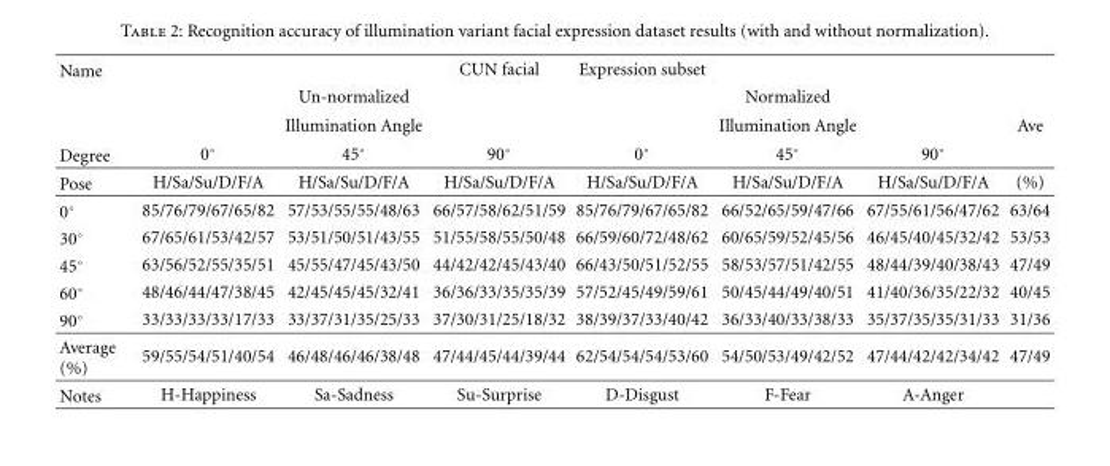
<table><thead><tr><td rowspan="4">Name Degree</td><td rowspan="4">0◦</td><td rowspan="4">Un-normalized Illumination Angle 45◦</td><td rowspan="4">CUN facial 90◦</td><td rowspan="4">Expression subset 0◦</td><td rowspan="4">Normalized Illumination Angle 45◦</td><td rowspan="4">90◦</td><td rowspan="4">Ave</td></tr><tr></tr><tr></tr><tr></tr></thead><tbody><tr><td>Pose</td><td>H/Sa/Su/D/F/A</td><td>H/Sa/Su/D/F/A</td><td>H/Sa/Su/D/F/A</td><td>H/Sa/Su/D/F/A</td><td>H/Sa/Su/D/F/A</td><td>H/Sa/Su/D/F/A</td><td>(%)</td></tr><tr><td>0◦</td><td>85/76/79/67/65/82</td><td>57/53/55/55/48/63</td><td>66/57/58/62/51/59</td><td>85/76/79/67/65/82</td><td>66/52/65/59/47/66</td><td>67/55/61/56/47/62</td><td>63/64</td></tr><tr><td>30◦</td><td>67/65/61/53/42/57</td><td>53/51/50/51/43/55</td><td>51/55/58/55/50/48</td><td>66/59/60/72/48/62</td><td>60/65/59/52/45/56</td><td>46/45/40/45/32/42</td><td>53/53</td></tr><tr><td>45◦</td><td>63/56/52/55/35/51</td><td>45/55/47/45/43/50</td><td>44/42/42/45/43/40</td><td>66/43/50/51/52/55</td><td>58/53/57/51/42/55</td><td>48/44/39/40/38/43</td><td>47/49</td></tr><tr><td>60◦</td><td>48/46/44/47/38/45</td><td>42/45/45/45/32/41</td><td>36/36/33/35/35/39</td><td>57/52/45/49/59/61</td><td>50/45/44/49/40/51</td><td>41/40/36/35/22/32</td><td>40/45</td></tr><tr><td>90◦</td><td>33/33/33/33/17/33</td><td>33/37/31/35/25/33</td><td>37/30/31/25/18/32</td><td>38/39/37/33/40/42</td><td>36/33/40/33/38/33</td><td>35/37/35/35/31/33</td><td>31/36</td></tr><tr><td>Average (%)</td><td>59/55/54/51/40/54</td><td>46/48/46/46/38/48</td><td>47/44/45/44/39/44</td><td>62/54/54/54/53/60</td><td>54/50/53/49/42/52</td><td>47/44/42/42/34/42</td><td>47/49</td></tr><tr><td>Notes</td><td>H-Happiness</td><td>Sa-Sadness</td><td>Su-Surprise</td><td>D-Disgust</td><td>F-Fear</td><td>A-Anger</td><td></td></tr></tbody></table>